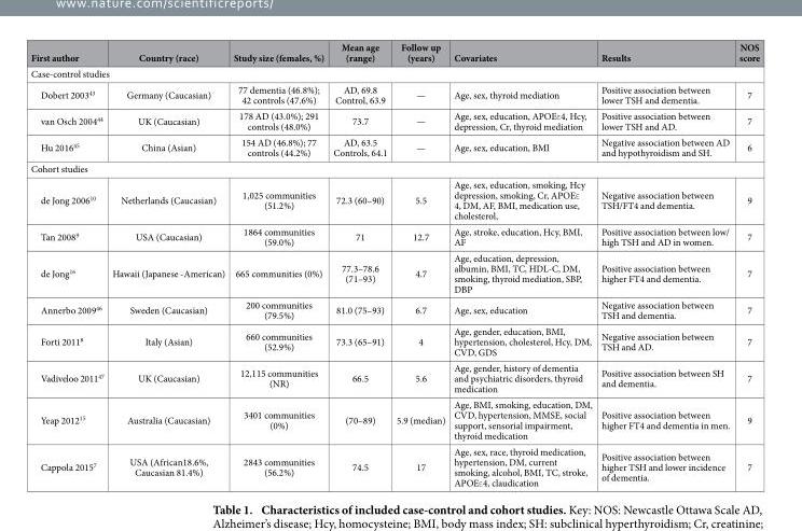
<table><thead><tr><td>First author</td><td>Country (race)</td><td>Study size (females, %)</td><td>Mean age (range)</td><td>Follow up (years)</td><td>Covariates</td><td>Results</td><td>NOS score</td></tr></thead><tbody><tr><td colspan="8">Case-control studies</td></tr><tr><td>Dobert 2003<sup>43</sup></td><td>Germany (Caucasian)</td><td>77 dementia (46.8%); 42 controls (47.6%)</td><td>AD, 69.8 Control, 63.9</td><td>—</td><td>Age, sex, thyroid mediation</td><td>Positive association between lower TSH and dementia.</td><td>7</td></tr><tr><td>van Osch 2004<sup>44</sup></td><td>UK (Caucasian)</td><td>178 AD (43.0%); 291 controls (48.0%)</td><td>73.7</td><td>—</td><td>Age, sex, education, APOEε 4, Hcy, depression, Cr, thyroid mediation</td><td>Positive association between lower TSH and AD.</td><td>7</td></tr><tr><td>Hu 2016<sup>45</sup></td><td>China (Asian)</td><td>154 AD (46.8%); 77 controls (44.2%)</td><td>AD, 63.5 Controls, 64.1</td><td>—</td><td>Age, sex, education, BMI</td><td>Negative association between AD and hypothyroidism and SH.</td><td>6</td></tr><tr><td colspan="8">Cohort studies</td></tr><tr><td>de Jong 2006<sup>10</sup></td><td>Netherlands (Caucasian)</td><td>1,025 communities (51.2%)</td><td>72.3 (60–90)</td><td>5.5</td><td>Age, sex, education, smoking, Hcy depression, smoking, Cr, APOEε 4, DM, AF, BMI, medication use, cholesterol,</td><td>Negative association between TSH/FT4 and dementia.</td><td>9</td></tr><tr><td>Tan 2008<sup>9</sup></td><td>USA (Caucasian)</td><td>1864 communities (59.0%)</td><td>71</td><td>12.7</td><td>Age, stroke, education, Hcy, BMI, AF</td><td>Positive association between low/ high TSH and AD in women.</td><td>7</td></tr><tr><td>de Jong<sup>16</sup></td><td>Hawaii (Japanese -American)</td><td>665 communities (0%)</td><td>77.3–78.6 (71–93)</td><td>4.7</td><td>Age, education, depression, albumin, BMI, TC, HDL-C, DM, smoking, thyroid mediation, SBP, DBP</td><td>Positive association between higher FT4 and dementia.</td><td>7</td></tr><tr><td>Annerbo 2009<sup>46</sup></td><td>Sweden (Caucasian)</td><td>200 communities (79.5%)</td><td>81.0 (75–93)</td><td>6.7</td><td>Age, sex, education</td><td>Negative association between TSH and dementia.</td><td>7</td></tr><tr><td>Forti 2011<sup>8</sup></td><td>Italy (Asian)</td><td>660 communities (52.9%)</td><td>73.3 (65–91)</td><td>4</td><td>Age, gender, education, BMI, hypertension, cholesterol, Hcy, DM, CVD, GDS</td><td>Negative association between TSH and AD.</td><td>7</td></tr><tr><td>Vadiveloo 2011<sup>47</sup></td><td>UK (Caucasian)</td><td>12,115 communities (NR)</td><td>66.5</td><td>5.6</td><td>Age, gender, history of dementia and psychiatric disorders, thyroid medication</td><td>Positive association between SH and dementia.</td><td>7</td></tr><tr><td>Yeap 2012<sup>15</sup></td><td>Australia (Caucasian)</td><td>3401 communities (0%)</td><td>(70–89)</td><td>5.9 (median)</td><td>Age, BMI, smoking, education, DM, CVD, hypertension, MMSE, social support, sensorial impairment, thyroid medication</td><td>Positive association between higher FT4 and dementia in men.</td><td>9</td></tr><tr><td>Cappola 2015<sup>7</sup></td><td>USA (African18.6%, Caucasian 81.4%)</td><td>2843 communities (56.2%)</td><td>74.5</td><td>17</td><td>Age, sex, race, thyroid medication, hypertension, DM, current smoking, alcohol, BMI, TC, stroke, APOEε 4, claudication</td><td>Positive association between higher TSH and lower incidence of dementia.</td><td>7</td></tr></tbody></table>